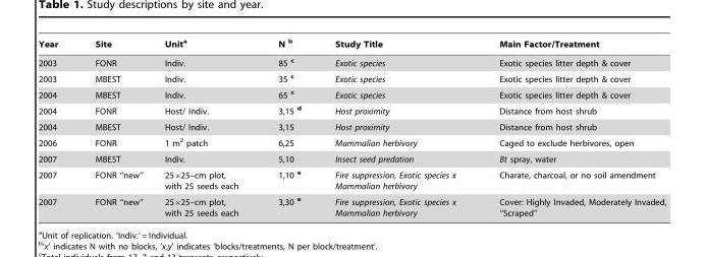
<table><thead><tr><td>Year</td><td>Site</td><td>Unit<sup>a</sup></td><td>N b</td><td>Study Title</td><td>Main Factor/Treatment</td></tr></thead><tbody><tr><td>2003</td><td>FONR</td><td>Indiv.</td><td>85 c</td><td>Exotic species</td><td>Exotic species litter depth &amp; cover</td></tr><tr><td>2003</td><td>MBEST</td><td>Indiv.</td><td>35 c</td><td>Exotic species</td><td>Exotic species litter depth &amp; cover</td></tr><tr><td>2004</td><td>MBEST</td><td>Indiv.</td><td>65 c</td><td>Exotic species</td><td>Exotic species litter depth &amp; cover</td></tr><tr><td>2004</td><td>FONR</td><td>Host/ Indiv.</td><td>3,15 d</td><td>Host proximity</td><td>Distance from host shrub</td></tr><tr><td>2004</td><td>MBEST</td><td>Host/ Indiv.</td><td>3,15</td><td>Host proximity</td><td>Distance from host shrub</td></tr><tr><td>2006</td><td>FONR</td><td>1 m<sup>2</sup> patch</td><td>6,25</td><td>Mammalian herbivory</td><td>Caged to exclude herbivores, open</td></tr><tr><td>2007</td><td>MBEST</td><td>Indiv.</td><td>5,10</td><td>Insect seed predation</td><td>Bt spray, water</td></tr><tr><td>2007</td><td>FONR ‘‘new’’</td><td>25×25–cm plot, with 25 seeds each</td><td>1,10 e</td><td>Fire suppression, Exotic species x Mammalian herbivory</td><td>Charate, charcoal, or no soil amendment</td></tr><tr><td>2007</td><td>FONR ‘‘new’’</td><td>25×25–cm plot, with 25 seeds each</td><td>3,30 e</td><td>Fire suppression, Exotic species x Mammalian herbivory</td><td>Cover: Highly Invaded, Moderately Invaded, ‘‘Scraped’’</td></tr></tbody></table>